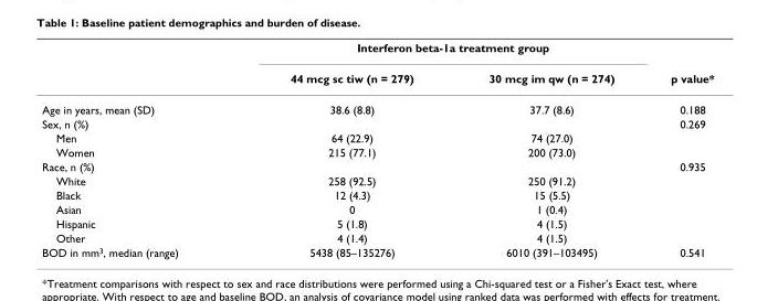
<table><thead><tr><td rowspan="2"></td><td colspan="2">Interferon beta-1a treatment group</td><td rowspan="2">p value*</td></tr><tr><td>44 mcg sc tiw (n = 279)</td><td>30 mcg im qw (n = 274)</td></tr></thead><tbody><tr><td>Age in years, mean (SD)</td><td>38.6 (8.8)</td><td>37.7 (8.6)</td><td>0.188</td></tr><tr><td>Sex, n (%)</td><td></td><td></td><td>0.269</td></tr><tr><td>Men</td><td>64 (22.9)</td><td>74 (27.0)</td><td></td></tr><tr><td>Women</td><td>215 (77.1)</td><td>200 (73.0)</td><td></td></tr><tr><td>Race, n (%)</td><td></td><td></td><td>0.935</td></tr><tr><td>White</td><td>258 (92.5)</td><td>250 (91.2)</td><td></td></tr><tr><td>Black</td><td>12 (4.3)</td><td>15 (5.5)</td><td></td></tr><tr><td>Asian</td><td>0</td><td>1 (0.4)</td><td></td></tr><tr><td>Hispanic</td><td>5 (1.8)</td><td>4 (1.5)</td><td></td></tr><tr><td>Other</td><td>4 (1.4)</td><td>4 (1.5)</td><td></td></tr><tr><td>BOD in mm<sup>3</sup>, median (range)</td><td>5438 (85–135276)</td><td>6010 (391–103495)</td><td>0.541</td></tr></tbody></table>